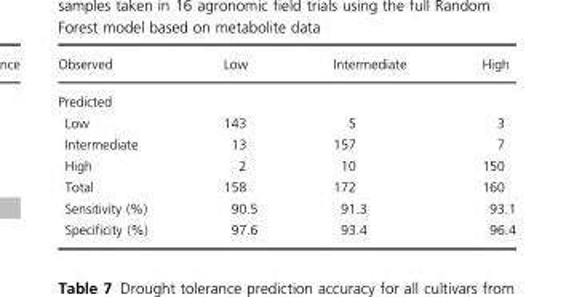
<table><thead><tr><td>Observed</td><td>Low</td><td>Intermediate</td><td>High</td></tr></thead><tbody><tr><td colspan="4">Predicted</td></tr><tr><td>Low</td><td>143</td><td>5</td><td>3</td></tr><tr><td>Intermediate</td><td>13</td><td>157</td><td>7</td></tr><tr><td>High</td><td>2</td><td>10</td><td>150</td></tr><tr><td>Total</td><td>158</td><td>172</td><td>160</td></tr><tr><td>Sensitivity (%)</td><td>90.5</td><td>91.3</td><td>93.1</td></tr><tr><td>Specificity (%)</td><td>97.6</td><td>93.4</td><td>96.4</td></tr></tbody></table>